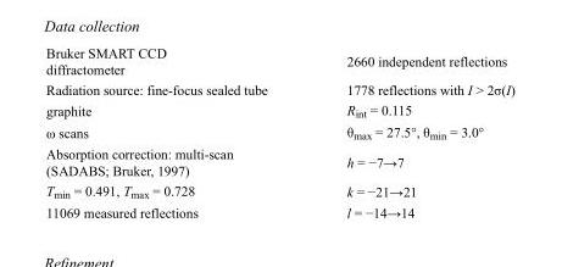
<table><tbody><tr><td>Bruker SMART CCD diffractometer</td><td>2660 independent reflections</td></tr><tr><td>Radiation source: fine-focus sealed tube</td><td>1778 reflections with I &gt; 2σ(I)</td></tr><tr><td>graphite</td><td>R<sub>int</sub> = 0.115</td></tr><tr><td>ω scans</td><td>θ<sub>max</sub> = 27.5°, θ<sub>min</sub> = 3.0°</td></tr><tr><td>Absorption correction: multi-scan (SADABS; Bruker, 1997)</td><td>h = −7→7</td></tr><tr><td>T<sub>min</sub> = 0.491, T<sub>max</sub> = 0.728</td><td>k = −21→21</td></tr><tr><td>11069 measured reflections</td><td>l = −14→14</td></tr></tbody></table>